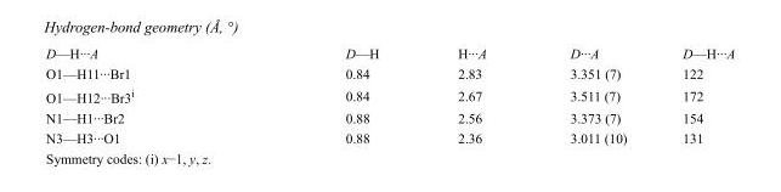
<table><tbody><tr><td>D—H···A</td><td>D—H</td><td>H···A</td><td>D···A</td><td>D—H···A</td></tr><tr><td>O1—H11···Br1</td><td>0.84</td><td>2.83</td><td>3.351 (7)</td><td>122</td></tr><tr><td>O1—H12···Br3<sup>i</sup></td><td>0.84</td><td>2.67</td><td>3.511 (7)</td><td>172</td></tr><tr><td>N1—H1···Br2</td><td>0.88</td><td>2.56</td><td>3.373 (7)</td><td>154</td></tr><tr><td>N3—H3···O1</td><td>0.88</td><td>2.36</td><td>3.011 (10)</td><td>131</td></tr></tbody></table>